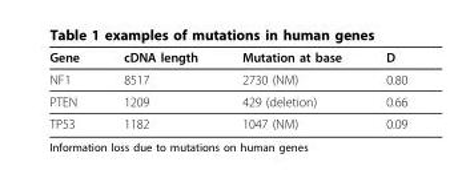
<table><thead><tr><td>Gene</td><td>cDNA length</td><td>Mutation at base</td><td>D</td></tr></thead><tbody><tr><td>NF1</td><td>8517</td><td>2730 (NM)</td><td>0.80</td></tr><tr><td>PTEN</td><td>1209</td><td>429 (deletion)</td><td>0.66</td></tr><tr><td>TP53</td><td>1182</td><td>1047 (NM)</td><td>0.09</td></tr></tbody></table>